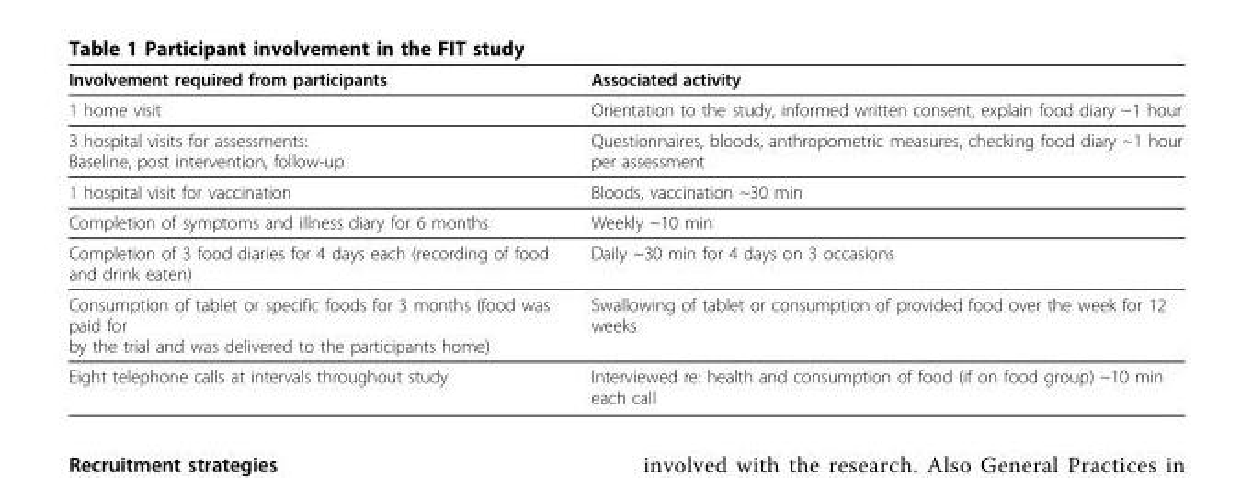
<table><thead><tr><td>Involvement required from participants</td><td>Associated activity</td></tr></thead><tbody><tr><td>1 home visit</td><td>Orientation to the study, informed written consent, explain food diary ~1 hour</td></tr><tr><td>3 hospital visits for assessments: Baseline, post intervention, follow-up</td><td>Questionnaires, bloods, anthropometric measures, checking food diary ~1 hour per assessment</td></tr><tr><td>1 hospital visit for vaccination</td><td>Bloods, vaccination ~30 min</td></tr><tr><td>Completion of symptoms and illness diary for 6 months</td><td>Weekly ~10 min</td></tr><tr><td>Completion of 3 food diaries for 4 days each (recording of food and drink eaten)</td><td>Daily ~30 min for 4 days on 3 occasions</td></tr><tr><td>Consumption of tablet or specific foods for 3 months (food was paid for by the trial and was delivered to the participants home)</td><td>Swallowing of tablet or consumption of provided food over the week for 12 weeks</td></tr><tr><td>Eight telephone calls at intervals throughout study</td><td>Interviewed re: health and consumption of food (if on food group) ~10 min each call</td></tr></tbody></table>